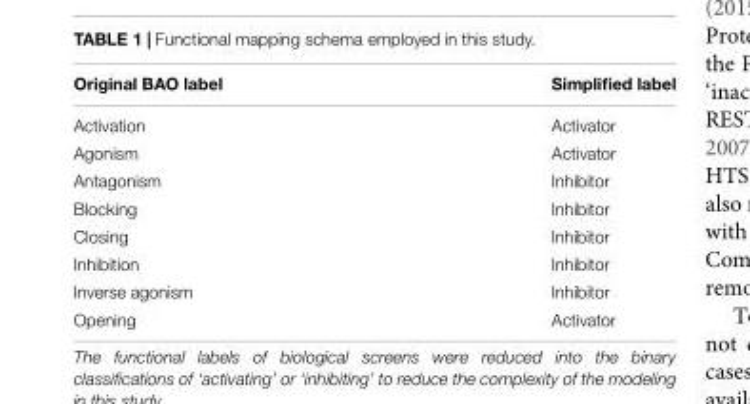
<table><thead><tr><td>Original BAO label</td><td>Simplified label</td></tr></thead><tbody><tr><td>Activation</td><td>Activator</td></tr><tr><td>Agonism</td><td>Activator</td></tr><tr><td>Antagonism</td><td>Inhibitor</td></tr><tr><td>Blocking</td><td>Inhibitor</td></tr><tr><td>Closing</td><td>Inhibitor</td></tr><tr><td>Inhibition</td><td>Inhibitor</td></tr><tr><td>Inverse agonism</td><td>Inhibitor</td></tr><tr><td>Opening</td><td>Activator</td></tr></tbody></table>